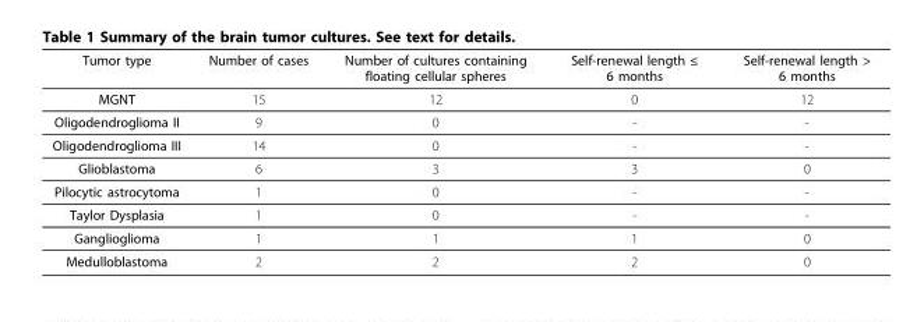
<table><thead><tr><td>Tumor type</td><td>Number of cases</td><td>Number of cultures containing floating cellular spheres</td><td>Self-renewal length ≤ 6 months</td><td>Self-renewal length &gt; 6 months</td></tr></thead><tbody><tr><td>MGNT</td><td>15</td><td>12</td><td>0</td><td>12</td></tr><tr><td>Oligodendroglioma II</td><td>9</td><td>0</td><td>-</td><td>-</td></tr><tr><td>Oligodendroglioma III</td><td>14</td><td>0</td><td>-</td><td>-</td></tr><tr><td>Glioblastoma</td><td>6</td><td>3</td><td>3</td><td>0</td></tr><tr><td>Pilocytic astrocytoma</td><td>1</td><td>0</td><td>-</td><td>-</td></tr><tr><td>Taylor Dysplasia</td><td>1</td><td>0</td><td>-</td><td>-</td></tr><tr><td>Ganglioglioma</td><td>1</td><td>1</td><td>1</td><td>0</td></tr><tr><td>Medulloblastoma</td><td>2</td><td>2</td><td>2</td><td>0</td></tr></tbody></table>